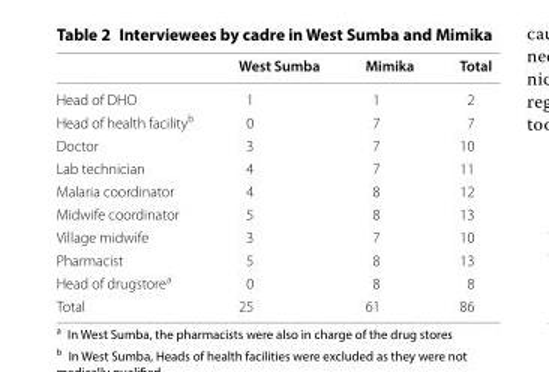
<table><thead><tr><td></td><td>West Sumba</td><td>Mimika</td><td>Total</td></tr></thead><tbody><tr><td>Head of DHO</td><td>1</td><td>1</td><td>2</td></tr><tr><td>Head of health facility<sup>b</sup></td><td>0</td><td>7</td><td>7</td></tr><tr><td>Doctor</td><td>3</td><td>7</td><td>10</td></tr><tr><td>Lab technician</td><td>4</td><td>7</td><td>11</td></tr><tr><td>Malaria coordinator</td><td>4</td><td>8</td><td>12</td></tr><tr><td>Midwife coordinator</td><td>5</td><td>8</td><td>13</td></tr><tr><td>Village midwife</td><td>3</td><td>7</td><td>10</td></tr><tr><td>Pharmacist</td><td>5</td><td>8</td><td>13</td></tr><tr><td>Head of drugstore<sup>a</sup></td><td>0</td><td>8</td><td>8</td></tr><tr><td>Total</td><td>25</td><td>61</td><td>86</td></tr></tbody></table>